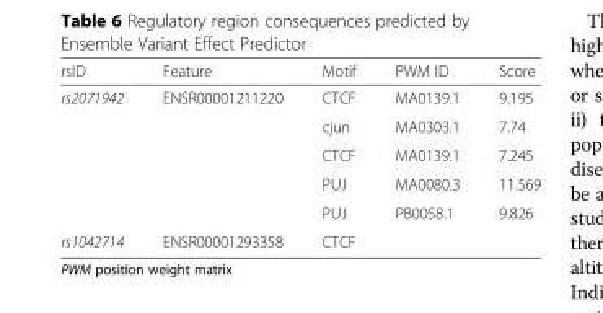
<table><thead><tr><td>rsID</td><td>Feature</td><td>Motif</td><td>PWM ID</td><td>Score</td></tr></thead><tbody><tr><td rowspan="5">rs2071942</td><td>ENSR00001211220</td><td>CTCF</td><td>MA0139.1</td><td>9.195</td></tr><tr><td></td><td>cjun</td><td>MA0303.1</td><td>7.74</td></tr><tr><td></td><td>CTCF</td><td>MA0139.1</td><td>7.245</td></tr><tr><td></td><td>PU.I</td><td>MA0080.3</td><td>11.569</td></tr><tr><td></td><td>PU.I</td><td>PB0058.1</td><td>9.826</td></tr><tr><td>rs1042714</td><td>ENSR00001293358</td><td>CTCF</td><td></td><td></td></tr></tbody></table>